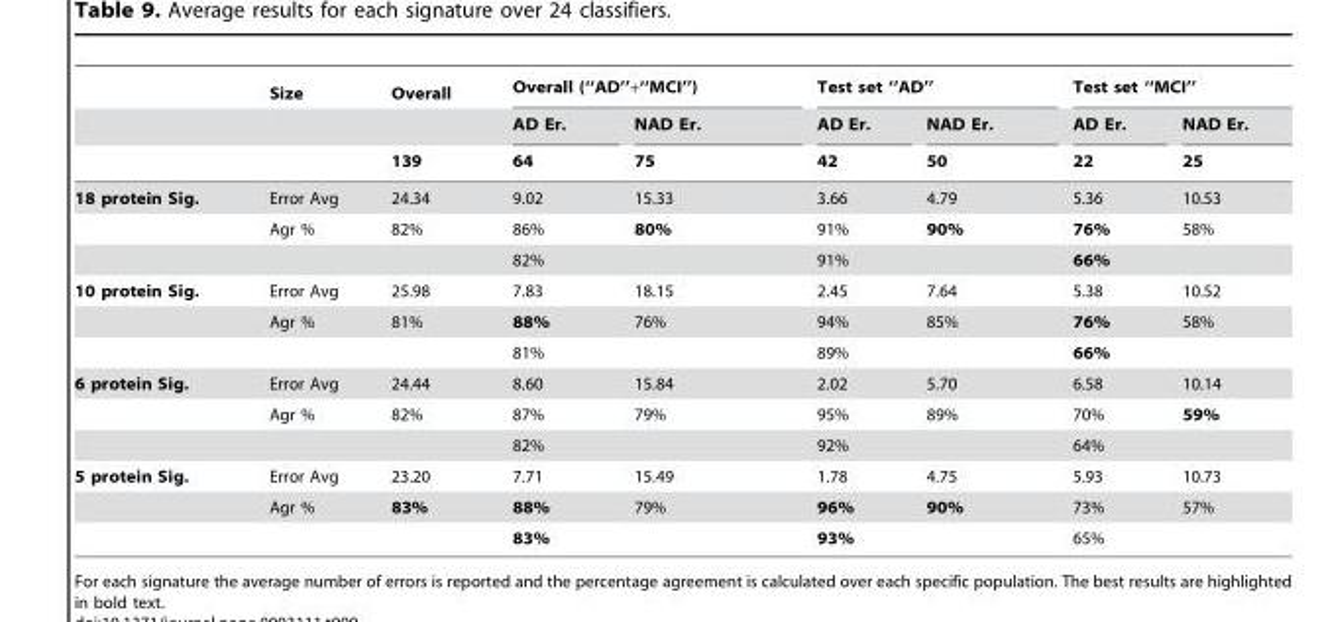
<table><thead><tr><td rowspan="3"></td><td rowspan="3">Size</td><td rowspan="3">Overall 139</td><td colspan="2">Overall (‘‘AD’’+‘‘MCI’’)</td><td colspan="2">Test set ‘‘AD’’</td><td colspan="2">Test set ‘‘MCI’’</td></tr><tr><td rowspan="2">AD Er. 64</td><td rowspan="2">NAD Er. 75</td><td rowspan="2">AD Er. 42</td><td rowspan="2">NAD Er. 50</td><td rowspan="2">AD Er. 22</td><td rowspan="2">NAD Er. 25</td></tr><tr></tr></thead><tbody><tr><td rowspan="3">18 protein Sig.</td><td>Error Avg</td><td>24.34</td><td>9.02</td><td>15.33</td><td>3.66</td><td>4.79</td><td>5.36</td><td>10.53</td></tr><tr><td>Agr %</td><td>82%</td><td>86%</td><td>80%</td><td>91%</td><td>90%</td><td>76%</td><td>58%</td></tr><tr><td></td><td></td><td colspan="2">82%</td><td colspan="2">91%</td><td colspan="2">66%</td></tr><tr><td rowspan="3">10 protein Sig.</td><td>Error Avg</td><td>25.98</td><td>7.83</td><td>18.15</td><td>2.45</td><td>7.64</td><td>5.38</td><td>10.52</td></tr><tr><td>Agr %</td><td>81%</td><td>88%</td><td>76%</td><td>94%</td><td>85%</td><td>76%</td><td>58%</td></tr><tr><td></td><td></td><td colspan="2">81%</td><td colspan="2">89%</td><td colspan="2">66%</td></tr><tr><td rowspan="3">6 protein Sig.</td><td>Error Avg</td><td>24.44</td><td>8.60</td><td>15.84</td><td>2.02</td><td>5.70</td><td>6.58</td><td>10.14</td></tr><tr><td>Agr %</td><td>82%</td><td>87%</td><td>79%</td><td>95%</td><td>89%</td><td>70%</td><td>59%</td></tr><tr><td></td><td></td><td colspan="2">82%</td><td colspan="2">92%</td><td colspan="2">64%</td></tr><tr><td rowspan="3">5 protein Sig.</td><td>Error Avg</td><td>23.20</td><td>7.71</td><td>15.49</td><td>1.78</td><td>4.75</td><td>5.93</td><td>10.73</td></tr><tr><td>Agr %</td><td>83%</td><td>88%</td><td>79%</td><td>96%</td><td>90%</td><td>73%</td><td>57%</td></tr><tr><td></td><td></td><td colspan="2">83%</td><td colspan="2">93%</td><td colspan="2">65%</td></tr></tbody></table>